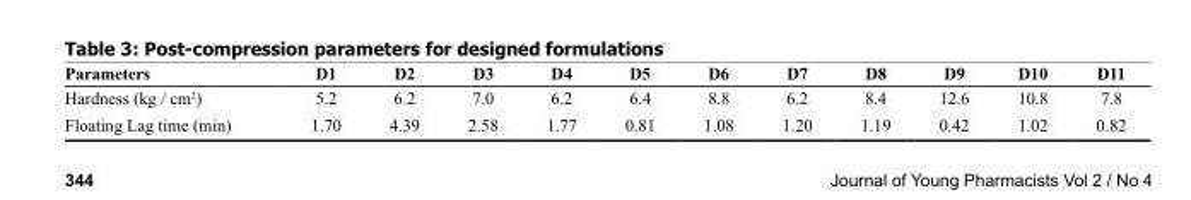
<table><thead><tr><td>Parameters</td><td>D1</td><td>D2</td><td>D3</td><td>D4</td><td>D5</td><td>D6</td><td>D7</td><td>D8</td><td>D9</td><td>D10</td><td>D11</td></tr></thead><tbody><tr><td>Hardness (kg / cm<sup>2</sup>)</td><td>5.2</td><td>6.2</td><td>7.0</td><td>6.2</td><td>6.4</td><td>8.8</td><td>6.2</td><td>8.4</td><td>12.6</td><td>10.8</td><td>7.8</td></tr><tr><td>Floating Lag time (min)</td><td>1.70</td><td>4.39</td><td>2.58</td><td>1.77</td><td>0.81</td><td>1.08</td><td>1.20</td><td>1.19</td><td>0.42</td><td>1.02</td><td>0.82</td></tr></tbody></table>